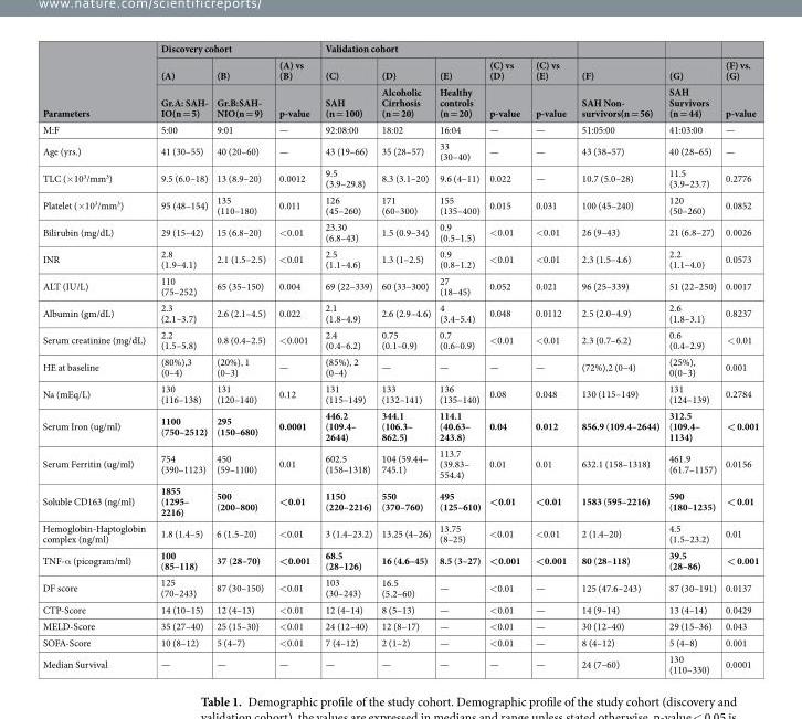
<table><thead><tr><td rowspan="3">Parameters</td><td colspan="3">Discovery cohort</td><td colspan="5">Validation cohort</td><td rowspan="3">(F) SAH Non- survivors(n = 56)</td><td rowspan="3">(G) SAH Survivors (n = 44)</td><td rowspan="3">(F) vs. (G) p-value</td></tr><tr><td rowspan="2">(A) Gr.A: SAH- IO(n = 5)</td><td rowspan="2">(B) Gr.B:SAH- NIO(n = 9)</td><td rowspan="2">(A) vs (B) p-value</td><td rowspan="2">(C) SAH (n = 100)</td><td rowspan="2">(D) Alcoholic Cirrhosis (n = 20)</td><td rowspan="2">(E) Healthy controls (n = 20)</td><td rowspan="2">(C) vs (D) p-value</td><td rowspan="2">(C) vs (E) p-value</td></tr><tr></tr></thead><tbody><tr><td>M:F</td><td>5:00</td><td>9:01</td><td>—</td><td>92:08:00</td><td>18:02</td><td>16:04</td><td>—</td><td>—</td><td>51:05:00</td><td>41:03:00</td><td>—</td></tr><tr><td>Age (yrs.)</td><td>41 (30–55)</td><td>40 (20–60)</td><td>—</td><td>43 (19–66)</td><td>35 (28–57)</td><td>33 (30–40)</td><td>—</td><td>—</td><td>43 (38–57)</td><td>40 (28–65)</td><td>—</td></tr><tr><td>TLC (×10<sup>3</sup>/mm<sup>3</sup>)</td><td>9.5 (6.0–18)</td><td>13 (8.9–20)</td><td>0.0012</td><td>9.5 (3.9–29.8)</td><td>8.3 (3.1–20)</td><td>9.6 (4–11)</td><td>0.022</td><td>—</td><td>10.7 (5.0–28)</td><td>11.5 (3.9–23.7)</td><td>0.2776</td></tr><tr><td>Platelet (×10<sup>3</sup>/mm<sup>3</sup>)</td><td>95 (48–154)</td><td>135 (110–180)</td><td>0.011</td><td>126 (45–260)</td><td>171 (60–300)</td><td>155 (135–400)</td><td>0.015</td><td>0.031</td><td>100 (45–240)</td><td>120 (50–260)</td><td>0.0852</td></tr><tr><td>Bilirubin (mg/dL)</td><td>29 (15–42)</td><td>15 (6.8–20)</td><td>&lt;0.01</td><td>23.30 (6.8–43)</td><td>1.5 (0.9–34)</td><td>0.9 (0.5–1.5)</td><td>&lt;0.01</td><td>&lt;0.01</td><td>26 (9–43)</td><td>21 (6.8–27)</td><td>0.0026</td></tr><tr><td>INR</td><td>2.8 (1.9–4.1)</td><td>2.1 (1.5–2.5)</td><td>&lt;0.01</td><td>2.5 (1.1–4.6)</td><td>1.3 (1–2.5)</td><td>0.9 (0.8–1.2)</td><td>&lt;0.01</td><td>&lt;0.01</td><td>2.3 (1.5–4.6)</td><td>2.2 (1.1–4.0)</td><td>0.0573</td></tr><tr><td>ALT (IU/L)</td><td>110 (75–252)</td><td>65 (35–150)</td><td>0.004</td><td>69 (22–339)</td><td>60 (33–300)</td><td>27 (18–45)</td><td>0.052</td><td>0.021</td><td>96 (25–339)</td><td>51 (22–250)</td><td>0.0017</td></tr><tr><td>Albumin (gm/dL)</td><td>2.3 (2.1–3.7)</td><td>2.6 (2.1–4.5)</td><td>0.022</td><td>2.1 (1.8–4.9)</td><td>2.6 (2.9–4.6)</td><td>4 (3.4–5.4)</td><td>0.048</td><td>0.0112</td><td>2.5 (2.0–4.9)</td><td>2.6 (1.8–3.1)</td><td>0.8237</td></tr><tr><td>Serum creatinine (mg/dL)</td><td>2.2 (1.5–5.8)</td><td>0.8 (0.4–2.5)</td><td>&lt;0.001</td><td>2.4 (0.4–6.2)</td><td>0.75 (0.1–0.9)</td><td>0.7 (0.6–0.9)</td><td>&lt;0.01</td><td>&lt;0.01</td><td>2.3 (0.7–6.2)</td><td>0.6 (0.4–2.9)</td><td>&lt; 0.01</td></tr><tr><td>HE at baseline</td><td>(80%),3 (0–4)</td><td>(20%), 1 (0–3)</td><td>—</td><td>(85%), 2 (0–4)</td><td>—</td><td>—</td><td>—</td><td>—</td><td>(72%),2 (0–4)</td><td>(25%), 0(0–3)</td><td>0.001</td></tr><tr><td>Na (mEq/L)</td><td>130 (116–138)</td><td>131 (120–140)</td><td>0.12</td><td>131 (115–149)</td><td>133 (132–141)</td><td>136 (135–140)</td><td>0.08</td><td>0.048</td><td>130 (115–149)</td><td>131 (124–139)</td><td>0.2784</td></tr><tr><td>Serum Iron (ug/ml)</td><td>1100 (750–2512)</td><td>295 (150–680)</td><td>0.0001</td><td>446.2 (109.4– 2644)</td><td>344.1 (106.3– 862.5)</td><td>114.1 (40.63– 243.8)</td><td>0.04</td><td>0.012</td><td>856.9 (109.4–2644)</td><td>312.5 (109.4– 1134)</td><td>&lt; 0.001</td></tr><tr><td>Serum Ferritin (ug/ml)</td><td>754 (390–1123)</td><td>450 (59–1100)</td><td>0.01</td><td>602.5 (158–1318)</td><td>104 (59.44– 745.1)</td><td>113.7 (39.83– 554.4)</td><td>0.01</td><td>0.01</td><td>632.1 (158–1318)</td><td>461.9 (61.7–1157)</td><td>0.0156</td></tr><tr><td>Soluble CD163 (ng/ml)</td><td>1855 (1295– 2216)</td><td>500 (200–800)</td><td>&lt;0.01</td><td>1150 (220–2216)</td><td>550 (370–760)</td><td>495 (125–610)</td><td>&lt;0.01</td><td>&lt;0.01</td><td>1583 (595–2216)</td><td>590 (180–1235)</td><td>&lt; 0.01</td></tr><tr><td>Hemoglobin-Haptoglobin complex (ng/ml)</td><td>1.8 (1.4–5)</td><td>6 (1.5–20)</td><td>&lt;0.01</td><td>3 (1.4–23.2)</td><td>13.25 (4–26)</td><td>13.75 (8–25)</td><td>&lt;0.01</td><td>&lt;0.01</td><td>2 (1.4–20)</td><td>4.5 (1.5–23.2)</td><td>0.01</td></tr><tr><td>TNF-α (picogram/ml)</td><td>100 (85–118)</td><td>37 (28–70)</td><td>&lt;0.001</td><td>68.5 (28–126)</td><td>16 (4.6–45)</td><td>8.5 (3–27)</td><td>&lt;0.001</td><td>&lt;0.001</td><td>80 (28–118)</td><td>39.5 (28–86)</td><td>&lt; 0.001</td></tr><tr><td>DF score</td><td>125 (70–243)</td><td>87 (30–150)</td><td>&lt;0.01</td><td>103 (30–243)</td><td>16.5 (5.2–60)</td><td>—</td><td>&lt;0.01</td><td>—</td><td>125 (47.6–243)</td><td>87 (30–191)</td><td>0.0137</td></tr><tr><td>CTP-Score</td><td>14 (10–15)</td><td>12 (4–13)</td><td>&lt;0.01</td><td>12 (4–14)</td><td>8 (5–13)</td><td>—</td><td>&lt;0.01</td><td>—</td><td>14 (9–14)</td><td>13 (4–14)</td><td>0.0429</td></tr><tr><td>MELD-Score</td><td>35 (27–40)</td><td>25 (15–30)</td><td>&lt;0.01</td><td>24 (12–40)</td><td>12 (8–17)</td><td>—</td><td>&lt;0.01</td><td>—</td><td>30 (12–40)</td><td>29 (15–36)</td><td>0.043</td></tr><tr><td>SOFA-Score</td><td>10 (8–12)</td><td>5 (4–7)</td><td>&lt;0.01</td><td>7 (4–12)</td><td>2 (1–2)</td><td>—</td><td>&lt;0.01</td><td>—</td><td>8 (4–12)</td><td>5 (4–8)</td><td>0.001</td></tr><tr><td>Median Survival</td><td>—</td><td>—</td><td>—</td><td>—</td><td>—</td><td>—</td><td>—</td><td>—</td><td>24 (7–60)</td><td>130 (110–330)</td><td>0.0001</td></tr></tbody></table>